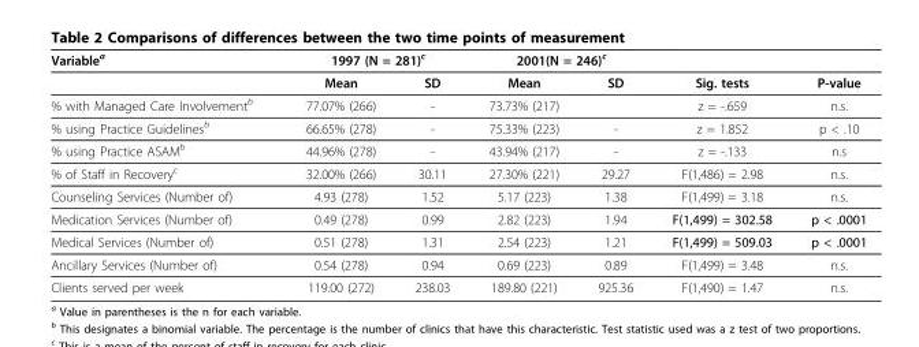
<table><thead><tr><td rowspan="2">Variable<sup>a</sup></td><td colspan="2">1997 (N = 281)<sup>c</sup></td><td colspan="2">2001(N = 246)<sup>c</sup></td><td rowspan="2">Sig. tests</td><td rowspan="2">P-value</td></tr><tr><td>Mean</td><td>SD</td><td>Mean</td><td>SD</td></tr></thead><tbody><tr><td>% with Managed Care Involvement<sup>b</sup></td><td>77.07% (266)</td><td>-</td><td>73.73% (217)</td><td></td><td>z = -.659</td><td>n.s.</td></tr><tr><td>% using Practice Guidelines<sup>b</sup></td><td>66.65% (278)</td><td>-</td><td>75.33% (223)</td><td>-</td><td>z = 1.852</td><td>p &lt; .10</td></tr><tr><td>% using Practice ASAM<sup>b</sup></td><td>44.96% (278)</td><td>-</td><td>43.94% (217)</td><td>-</td><td>z = -.133</td><td>n.s</td></tr><tr><td>% of Staff in Recovery<sup>c</sup></td><td>32.00% (266)</td><td>30.11</td><td>27.30% (221)</td><td>29.27</td><td>F(1,486) = 2.98</td><td>n.s.</td></tr><tr><td>Counseling Services (Number of)</td><td>4.93 (278)</td><td>1.52</td><td>5.17 (223)</td><td>1.38</td><td>F(1,499) = 3.18</td><td>n.s.</td></tr><tr><td>Medication Services (Number of)</td><td>0.49 (278)</td><td>0.99</td><td>2.82 (223)</td><td>1.94</td><td>F(1,499) = 302.58</td><td>p &lt; .0001</td></tr><tr><td>Medical Services (Number of)</td><td>0.51 (278)</td><td>1.31</td><td>2.54 (223)</td><td>1.21</td><td>F(1,499) = 509.03</td><td>p &lt; .0001</td></tr><tr><td>Ancillary Services (Number of)</td><td>0.54 (278)</td><td>0.94</td><td>0.69 (223)</td><td>0.89</td><td>F(1,499) = 3.48</td><td>n.s.</td></tr><tr><td>Clients served per week</td><td>119.00 (272)</td><td>238.03</td><td>189.80 (221)</td><td>925.36</td><td>F(1,490) = 1.47</td><td>n.s.</td></tr></tbody></table>